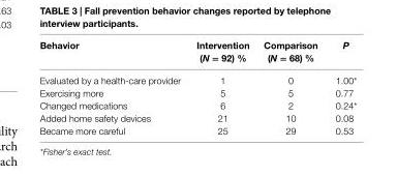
<table><thead><tr><td>Behavior</td><td>intervention (N = 92) %</td><td>Comparison (N = 68) %</td><td>P</td></tr></thead><tbody><tr><td>Evaluated by a health-care provider</td><td>1</td><td>0</td><td>1.00*</td></tr><tr><td>Exercising more</td><td>5</td><td>5</td><td>0.77</td></tr><tr><td>Changed medications</td><td>6</td><td>2</td><td>0.24*</td></tr><tr><td>Added home safety devices</td><td>21</td><td>10</td><td>0.08</td></tr><tr><td>Became more careful</td><td>25</td><td>29</td><td>0.53</td></tr></tbody></table>